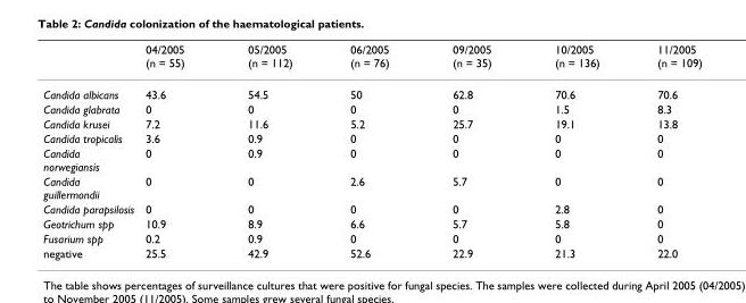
<table><thead><tr><td></td><td>04/2005 (n = 55)</td><td>05/2005 (n = 112)</td><td>06/2005 (n = 76)</td><td>09/2005 (n = 35)</td><td>10/2005 (n = 136)</td><td>11/2005 (n = 109)</td></tr></thead><tbody><tr><td>Candida albicans</td><td>43.6</td><td>54.5</td><td>50</td><td>62.8</td><td>70.6</td><td>70.6</td></tr><tr><td>Candida glabrata</td><td>0</td><td>0</td><td>0</td><td>0</td><td>1.5</td><td>8.3</td></tr><tr><td>Candida krusei</td><td>7.2</td><td>11.6</td><td>5.2</td><td>25.7</td><td>19.1</td><td>13.8</td></tr><tr><td>Candida tropicalis</td><td>3.6</td><td>0.9</td><td>0</td><td>0</td><td>0</td><td>0</td></tr><tr><td>Candida norwegiansis</td><td>0</td><td>0.9</td><td>0</td><td>0</td><td>0</td><td>0</td></tr><tr><td>Candida guillermondii</td><td>0</td><td>0</td><td>2.6</td><td>5.7</td><td>0</td><td>0</td></tr><tr><td>Candida parapsilosis</td><td>0</td><td>0</td><td>0</td><td>0</td><td>2.8</td><td>0</td></tr><tr><td>Geotrichum spp</td><td>10.9</td><td>8.9</td><td>6.6</td><td>5.7</td><td>5.8</td><td>0</td></tr><tr><td>Fusarium spp</td><td>0.2</td><td>0.9</td><td>0</td><td>0</td><td>0</td><td>0</td></tr><tr><td>negative</td><td>25.5</td><td>42.9</td><td>52.6</td><td>22.9</td><td>21.3</td><td>22.0</td></tr></tbody></table>